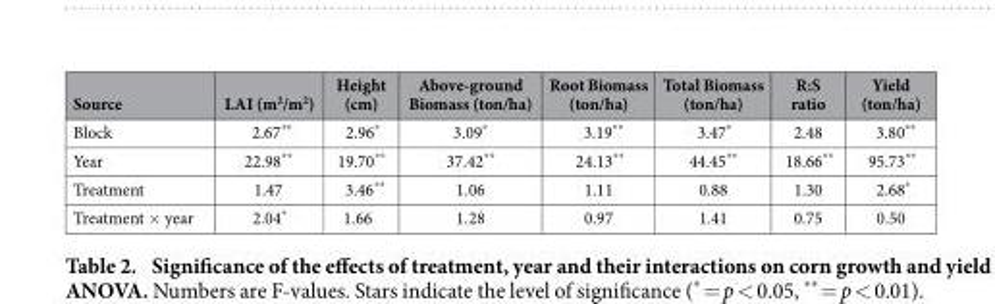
<table><thead><tr><td>Source</td><td>LAI (m<sup>2</sup>/m<sup>2</sup>)</td><td>Height (cm)</td><td>Above-ground Biomass (ton/ha)</td><td>Root Biomass (ton/ha)</td><td>Total Biomass (ton/ha)</td><td>R:S ratio</td><td>Yield (ton/ha)</td></tr></thead><tbody><tr><td>Block</td><td>2.67**</td><td>2.96*</td><td>3.09*</td><td>3.19**</td><td>3.47*</td><td>2.48</td><td>3.80**</td></tr><tr><td>Year</td><td>22.98**</td><td>19.70**</td><td>37.42**</td><td>24.13**</td><td>44.45**</td><td>18.66**</td><td>95.73**</td></tr><tr><td>Treatment</td><td>1.47</td><td>3.46**</td><td>1.06</td><td>1.11</td><td>0.88</td><td>1.30</td><td>2.68*</td></tr><tr><td>Treatment × year</td><td>2.04*</td><td>1.66</td><td>1.28</td><td>0.97</td><td>1.41</td><td>0.75</td><td>0.50</td></tr></tbody></table>